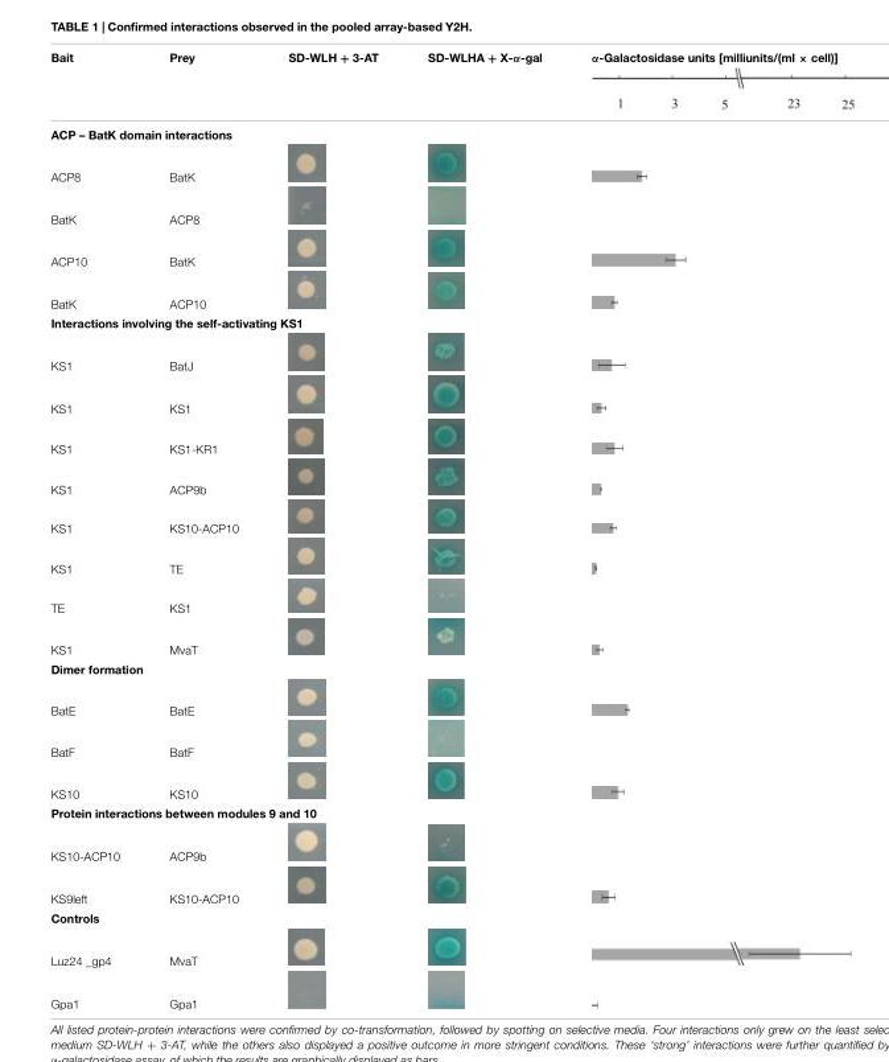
<table><thead><tr><td>Bait</td><td>Prey</td><td>SD-WLH + 3-AT</td><td>SD-WLHA + X-α-gal</td><td>α-Galactosidase units [milliunits/(ml × cell)]</td></tr></thead><tbody><tr><td colspan="5">ACP – BatK domain interactions</td></tr><tr><td>ACP8</td><td>BatK</td><td></td><td></td><td></td></tr><tr><td>BatK</td><td>ACP8</td><td></td><td></td><td></td></tr><tr><td>ACP10</td><td>BatK</td><td></td><td></td><td></td></tr><tr><td>BatK</td><td>ACP10</td><td></td><td></td><td></td></tr><tr><td colspan="5">Interactions involving the self-activating KS1</td></tr><tr><td>KS1</td><td>BatJ</td><td></td><td></td><td></td></tr><tr><td>KS1</td><td>KS1</td><td></td><td></td><td></td></tr><tr><td>KS1</td><td>KS1-KR1</td><td></td><td></td><td></td></tr><tr><td>KS1</td><td>ACP9b</td><td></td><td></td><td></td></tr><tr><td>KS1</td><td>KS10-ACP10</td><td></td><td></td><td></td></tr><tr><td>KS1</td><td>TE</td><td></td><td></td><td></td></tr><tr><td>TE</td><td>KS1</td><td></td><td></td><td></td></tr><tr><td>KS1</td><td>MvaT</td><td></td><td></td><td></td></tr><tr><td colspan="5">Dimer formation</td></tr><tr><td>BatE</td><td>BatE</td><td></td><td></td><td></td></tr><tr><td>BatF</td><td>BatF</td><td></td><td></td><td></td></tr><tr><td>KS10</td><td>KS10</td><td></td><td></td><td></td></tr><tr><td colspan="5">Protein interactions between modules 9 and 10</td></tr><tr><td>KS10-ACP10</td><td>ACP9b</td><td></td><td></td><td></td></tr><tr><td>KS9left</td><td>KS10-ACP10</td><td></td><td></td><td></td></tr><tr><td colspan="5">Controls</td></tr><tr><td>Luz24 _gp4</td><td>MvaT</td><td></td><td></td><td></td></tr><tr><td>Gpa1</td><td>Gpa1</td><td></td><td></td><td></td></tr></tbody></table>